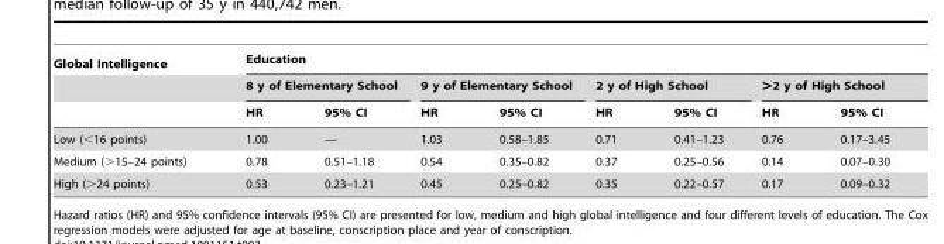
<table><thead><tr><td rowspan="3">Global Intelligence</td><td colspan="8">Education</td></tr><tr><td colspan="2">8 y of Elementary School</td><td colspan="2">9 y of Elementary School</td><td colspan="2">2 y of High School</td><td colspan="2">&gt;2 y of High School</td></tr><tr><td>HR</td><td>95% CI</td><td>HR</td><td>95% CI</td><td>HR</td><td>95% CI</td><td>HR</td><td>95% CI</td></tr></thead><tbody><tr><td>Low (&lt;16 points)</td><td>1.00</td><td>—</td><td>1.03</td><td>0.58–1.85</td><td>0.71</td><td>0.41–1.23</td><td>0.76</td><td>0.17–3.45</td></tr><tr><td>Medium (&gt;15–24 points)</td><td>0.78</td><td>0.51–1.18</td><td>0.54</td><td>0.35–0.82</td><td>0.37</td><td>0.25–0.56</td><td>0.14</td><td>0.07–0.30</td></tr><tr><td>High (&gt;24 points)</td><td>0.53</td><td>0.23–1.21</td><td>0.45</td><td>0.25–0.82</td><td>0.35</td><td>0.22–0.57</td><td>0.17</td><td>0.09–0.32</td></tr></tbody></table>